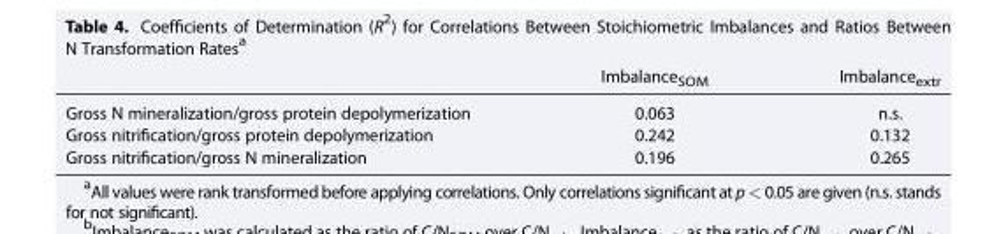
<table><thead><tr><td></td><td>Imbalance<sub>SOM</sub></td><td>Imbalance<sub>extr</sub></td></tr></thead><tbody><tr><td>Gross N mineralization/gross protein depolymerization</td><td>0.063</td><td>n.s.</td></tr><tr><td>Gross nitrification/gross protein depolymerization</td><td>0.242</td><td>0.132</td></tr><tr><td>Gross nitrification/gross N mineralization</td><td>0.196</td><td>0.265</td></tr></tbody></table>